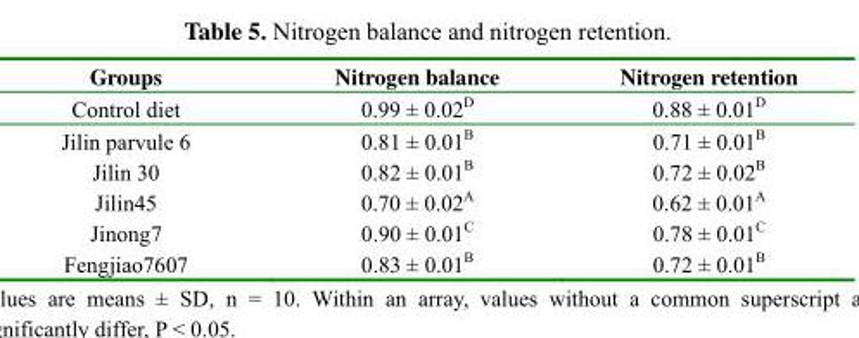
<table><thead><tr><td>Groups</td><td>Nitrogen balance</td><td>Nitrogen retention</td></tr></thead><tbody><tr><td>Control diet</td><td>0.99 ± 0.02<sup>D</sup></td><td>0.88 ± 0.01<sup>D</sup></td></tr><tr><td>Jilin parvule 6</td><td>0.81 ± 0.01<sup>B</sup></td><td>0.71 ± 0.01<sup>B</sup></td></tr><tr><td>Jilin 30</td><td>0.82 ± 0.01<sup>B</sup></td><td>0.72 ± 0.02<sup>B</sup></td></tr><tr><td>Jilin45</td><td>0.70 ± 0.02<sup>A</sup></td><td>0.62 ± 0.01<sup>A</sup></td></tr><tr><td>Jinong7</td><td>0.90 ± 0.01<sup>C</sup></td><td>0.78 ± 0.01<sup>C</sup></td></tr><tr><td>Fengjiao7607</td><td>0.83 ± 0.01<sup>B</sup></td><td>0.72 ± 0.01<sup>B</sup></td></tr></tbody></table>